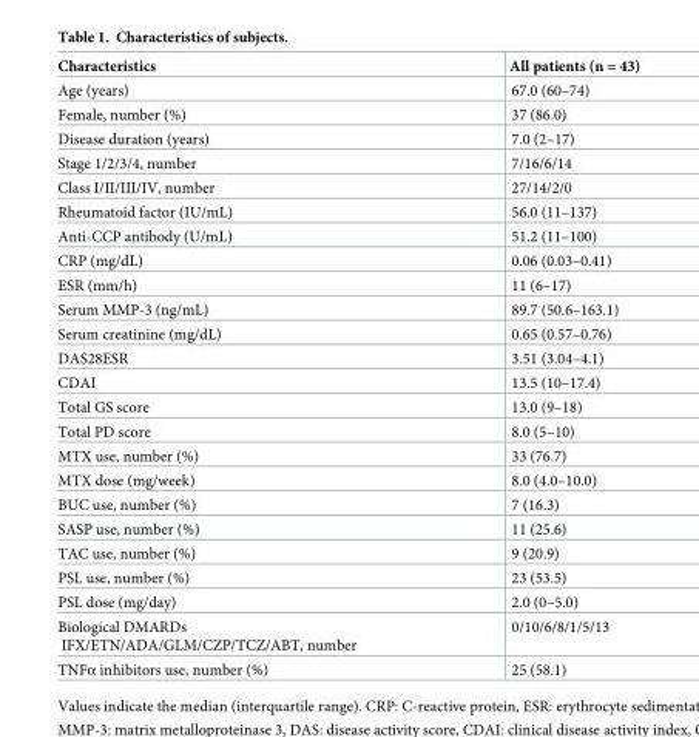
<table><thead><tr><td>Characteristics</td><td>All patients (n = 43)</td></tr></thead><tbody><tr><td>Age (years)</td><td>67.0 (60–74)</td></tr><tr><td>Female, number (%)</td><td>37 (86.0)</td></tr><tr><td>Disease duration (years)</td><td>7.0 (2–17)</td></tr><tr><td>Stage 1/2/3/4, number</td><td>7/16/6/14</td></tr><tr><td>Class I/II/III/IV, number</td><td>27/14/2/0</td></tr><tr><td>Rheumatoid factor (IU/mL)</td><td>56.0 (11–137)</td></tr><tr><td>Anti-CCP antibody (U/mL)</td><td>51.2 (11–100)</td></tr><tr><td>CRP (mg/dL)</td><td>0.06 (0.03–0.41)</td></tr><tr><td>ESR (mm/h)</td><td>11 (6–17)</td></tr><tr><td>Serum MMP-3 (ng/mL)</td><td>89.7 (50.6–163.1)</td></tr><tr><td>Serum creatinine (mg/dL)</td><td>0.65 (0.57–0.76)</td></tr><tr><td>DAS28ESR</td><td>3.51 (3.04–4.1)</td></tr><tr><td>CDAI</td><td>13.5 (10–17.4)</td></tr><tr><td>Total GS score</td><td>13.0 (9–18)</td></tr><tr><td>Total PD score</td><td>8.0 (5–10)</td></tr><tr><td>MTX use, number (%)</td><td>33 (76.7)</td></tr><tr><td>MTX dose (mg/week)</td><td>8.0 (4.0–10.0)</td></tr><tr><td>BUC use, number (%)</td><td>7 (16.3)</td></tr><tr><td>SASP use, number (%)</td><td>11 (25.6)</td></tr><tr><td>TAC use, number (%)</td><td>9 (20.9)</td></tr><tr><td>PSL use, number (%)</td><td>23 (53.5)</td></tr><tr><td>PSL dose (mg/day)</td><td>2.0 (0–5.0)</td></tr><tr><td>Biological DMARDs IFX/ETN/ADA/GLM/CZP/TCZ/ABT, number</td><td>0/10/6/8/1/5/13</td></tr><tr><td>TNFα inhibitors use, number (%)</td><td>25 (58.1)</td></tr></tbody></table>